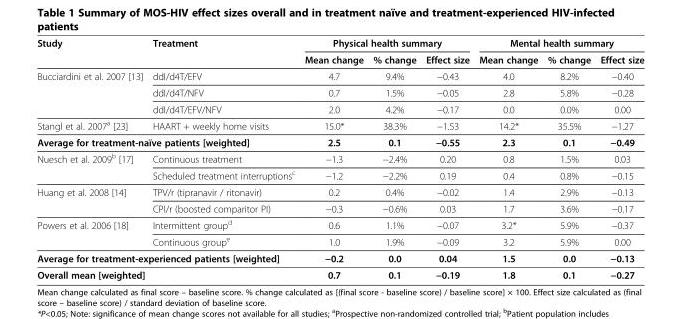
<table><thead><tr><td rowspan="2">Study</td><td rowspan="2">Treatment</td><td colspan="3">Physical health summary</td><td colspan="3">Mental health summary</td></tr><tr><td>Mean change</td><td>% change</td><td>Effect size</td><td>Mean change</td><td>% change</td><td>Effect size</td></tr></thead><tbody><tr><td rowspan="3">Bucciardini et al. 2007 [13]</td><td>ddI/d4T/EFV</td><td>4.7</td><td>9.4%</td><td>−0.43</td><td>4.0</td><td>8.2%</td><td>−0.40</td></tr><tr><td>ddI/d4T/NFV</td><td>0.7</td><td>1.5%</td><td>−0.05</td><td>2.8</td><td>5.8%</td><td>−0.28</td></tr><tr><td>ddI/d4T/EFV/NFV</td><td>2.0</td><td>4.2%</td><td>−0.17</td><td>0.0</td><td>0.0%</td><td>0.00</td></tr><tr><td>Stangl et al. 2007<sup>a</sup> [23]</td><td>HAART + weekly home visits</td><td>15.0*</td><td>38.3%</td><td>−1.53</td><td>14.2*</td><td>35.5%</td><td>−1.27</td></tr><tr><td colspan="2">Average for treatment-naïve patients [weighted]</td><td>2.5</td><td>0.1</td><td>−0.55</td><td>2.3</td><td>0.1</td><td>−0.49</td></tr><tr><td rowspan="2">Nuesch et al. 2009<sup>b</sup> [17]</td><td>Continuous treatment</td><td>−1.3</td><td>−2.4%</td><td>0.20</td><td>0.8</td><td>1.5%</td><td>0.03</td></tr><tr><td>Scheduled treatment interruptions<sup>c</sup></td><td>−1.2</td><td>−2.2%</td><td>0.19</td><td>0.4</td><td>0.8%</td><td>−0.15</td></tr><tr><td rowspan="2">Huang et al. 2008 [14]</td><td>TPV/r (tipranavir / ritonavir)</td><td>0.2</td><td>0.4%</td><td>−0.02</td><td>1.4</td><td>2.9%</td><td>−0.13</td></tr><tr><td>CPI/r (boosted comparitor PI)</td><td>−0.3</td><td>−0.6%</td><td>0.03</td><td>1.7</td><td>3.6%</td><td>−0.17</td></tr><tr><td rowspan="2">Powers et al. 2006 [18]</td><td>Intermittent group<sup>d</sup></td><td>0.6</td><td>1.1%</td><td>−0.07</td><td>3.2*</td><td>5.9%</td><td>−0.37</td></tr><tr><td>Continuous group<sup>e</sup></td><td>1.0</td><td>1.9%</td><td>−0.09</td><td>3.2</td><td>5.9%</td><td>0.00</td></tr><tr><td colspan="2">Average for treatment-experienced patients [weighted]</td><td>−0.2</td><td>0.0</td><td>0.04</td><td>1.5</td><td>0.0</td><td>−0.13</td></tr><tr><td colspan="2">Overall mean [weighted]</td><td>0.7</td><td>0.1</td><td>−0.19</td><td>1.8</td><td>0.1</td><td>−0.27</td></tr></tbody></table>